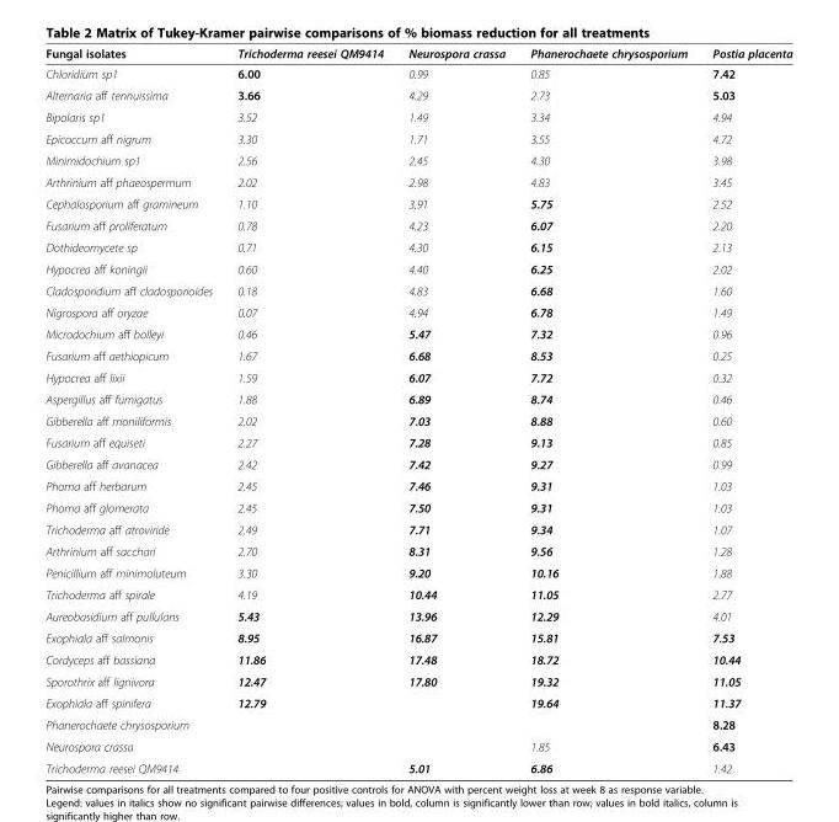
<table><thead><tr><td>Fungal isolates</td><td>Trichoderma reesei QM9414</td><td>Neurospora crassa</td><td>Phanerochaete chrysosporium</td><td>Postia placenta</td></tr></thead><tbody><tr><td>Chloridium sp1</td><td>6.00</td><td>0.99</td><td>0.85</td><td>7.42</td></tr><tr><td>Alternaria aff tennuissima</td><td>3.66</td><td>4.29</td><td>2.73</td><td>5.03</td></tr><tr><td>Bipolaris sp1</td><td>3.52</td><td>1.49</td><td>3.34</td><td>4.94</td></tr><tr><td>Epicoccum aff nigrum</td><td>3.30</td><td>1.71</td><td>3.55</td><td>4.72</td></tr><tr><td>Minimidochium sp1</td><td>2.56</td><td>2.45</td><td>4.30</td><td>3.98</td></tr><tr><td>Arthrinium aff phaeospermum</td><td>2.02</td><td>2.98</td><td>4.83</td><td>3.45</td></tr><tr><td>Cephalosporium aff gramineum</td><td>1.10</td><td>3.91</td><td>5.75</td><td>2.52</td></tr><tr><td>Fusarium aff proliferatum</td><td>0.78</td><td>4.23</td><td>6.07</td><td>2.20</td></tr><tr><td>Dothideomycete sp</td><td>0.71</td><td>4.30</td><td>6.15</td><td>2.13</td></tr><tr><td>Hypocrea aff koningii</td><td>0.60</td><td>4.40</td><td>6.25</td><td>2.02</td></tr><tr><td>Cladosporidium aff cladosporioides</td><td>0.18</td><td>4.83</td><td>6.68</td><td>1.60</td></tr><tr><td>Nigrospora aff oryzae</td><td>0.07</td><td>4.94</td><td>6.78</td><td>1.49</td></tr><tr><td>Microdochium aff bolleyi</td><td>0.46</td><td>5.47</td><td>7.32</td><td>0.96</td></tr><tr><td>Fusarium aff aethiopicum</td><td>1.67</td><td>6.68</td><td>8.53</td><td>0.25</td></tr><tr><td>Hypocrea aff lixii</td><td>1.59</td><td>6.07</td><td>7.72</td><td>0.32</td></tr><tr><td>Aspergillus aff fumigatus</td><td>1.88</td><td>6.89</td><td>8.74</td><td>0.46</td></tr><tr><td>Gibberella aff moniliformis</td><td>2.02</td><td>7.03</td><td>8.88</td><td>0.60</td></tr><tr><td>Fusarium aff equiseti</td><td>2.27</td><td>7.28</td><td>9.13</td><td>0.85</td></tr><tr><td>Gibberella aff avanacea</td><td>2.42</td><td>7.42</td><td>9.27</td><td>0.99</td></tr><tr><td>Phoma aff herbarum</td><td>2.45</td><td>7.46</td><td>9.31</td><td>1.03</td></tr><tr><td>Phoma aff glomerata</td><td>2.45</td><td>7.50</td><td>9.31</td><td>1.03</td></tr><tr><td>Trichoderma aff atroviride</td><td>2.49</td><td>7.71</td><td>9.34</td><td>1.07</td></tr><tr><td>Arthrinium aff sacchari</td><td>2.70</td><td>8.31</td><td>9.56</td><td>1.28</td></tr><tr><td>Penicillium aff minimoluteum</td><td>3.30</td><td>9.20</td><td>10.16</td><td>1.88</td></tr><tr><td>Trichoderma aff spirale</td><td>4.19</td><td>10.44</td><td>11.05</td><td>2.77</td></tr><tr><td>Aureobasidium aff pullulans</td><td>5.43</td><td>13.96</td><td>12.29</td><td>4.01</td></tr><tr><td>Exophiala aff salmonis</td><td>8.95</td><td>16.87</td><td>15.81</td><td>7.53</td></tr><tr><td>Cordyceps aff bassiana</td><td>11.86</td><td>17.48</td><td>18.72</td><td>10.44</td></tr><tr><td>Sporothrix aff lignivora</td><td>12.47</td><td>17.80</td><td>19.32</td><td>11.05</td></tr><tr><td>Exophiala aff spinifera</td><td>12.79</td><td></td><td>19.64</td><td>11.37</td></tr><tr><td>Phanerochaete chrysosporium</td><td></td><td></td><td></td><td>8.28</td></tr><tr><td>Neurospora crassa</td><td></td><td></td><td>1.85</td><td>6.43</td></tr><tr><td>Trichoderma reesei QM9414</td><td></td><td>5.01</td><td>6.86</td><td>1.42</td></tr></tbody></table>